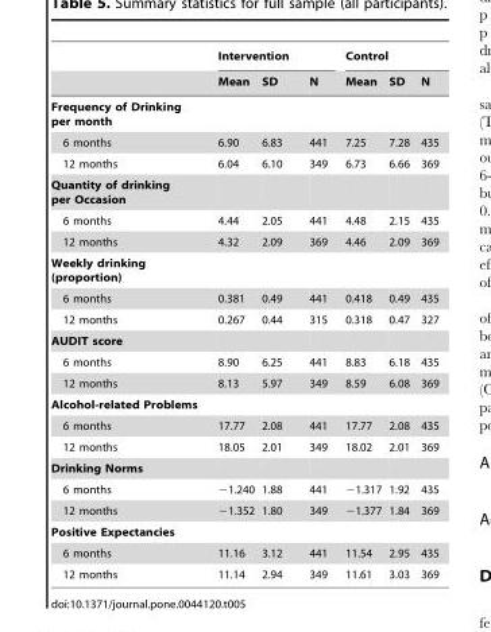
<table><thead><tr><td rowspan="2"></td><td colspan="3">Intervention</td><td colspan="3">Control</td></tr><tr><td>Mean</td><td>SD</td><td>N</td><td>Mean</td><td>SD</td><td>N</td></tr></thead><tbody><tr><td colspan="7">Frequency of Drinking per month</td></tr><tr><td>6 months</td><td>6.90</td><td>6.83</td><td>441</td><td>7.25</td><td>7.28</td><td>435</td></tr><tr><td>12 months</td><td>6.04</td><td>6.10</td><td>349</td><td>6.73</td><td>6.66</td><td>369</td></tr><tr><td colspan="7">Quantity of drinking per Occasion</td></tr><tr><td>6 months</td><td>4.44</td><td>2.05</td><td>441</td><td>4.48</td><td>2.15</td><td>435</td></tr><tr><td>12 months</td><td>4.32</td><td>2.09</td><td>369</td><td>4.46</td><td>2.09</td><td>369</td></tr><tr><td colspan="7">Weekly drinking (proportion)</td></tr><tr><td>6 months</td><td>0.381</td><td>0.49</td><td>441</td><td>0.418</td><td>0.49</td><td>435</td></tr><tr><td>12 months</td><td>0.267</td><td>0.44</td><td>315</td><td>0.318</td><td>0.47</td><td>327</td></tr><tr><td colspan="7">AUDIT score</td></tr><tr><td>6 months</td><td>8.90</td><td>6.25</td><td>441</td><td>8.83</td><td>6.18</td><td>435</td></tr><tr><td>12 months</td><td>8.13</td><td>5.97</td><td>349</td><td>8.59</td><td>6.08</td><td>369</td></tr><tr><td colspan="7">Alcohol-related Problems</td></tr><tr><td>6 months</td><td>17.77</td><td>2.08</td><td>441</td><td>17.77</td><td>2.08</td><td>435</td></tr><tr><td>12 months</td><td>18.05</td><td>2.01</td><td>349</td><td>18.02</td><td>2.01</td><td>369</td></tr><tr><td colspan="7">Drinking Norms</td></tr><tr><td>6 months</td><td>−1.240</td><td>1.88</td><td>441</td><td>−1.317</td><td>1.92</td><td>435</td></tr><tr><td>12 months</td><td>−1.352</td><td>1.80</td><td>349</td><td>−1.377</td><td>1.84</td><td>369</td></tr><tr><td colspan="7">Positive Expectancies</td></tr><tr><td>6 months</td><td>11.16</td><td>3.12</td><td>441</td><td>11.54</td><td>2.95</td><td>435</td></tr><tr><td>12 months</td><td>11.14</td><td>2.94</td><td>349</td><td>11.61</td><td>3.03</td><td>369</td></tr></tbody></table>